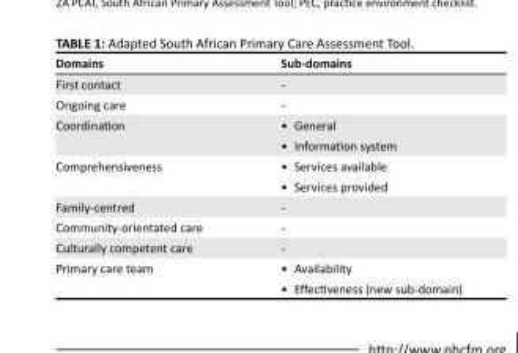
<table><thead><tr><td>Domains</td><td>Sub-domains</td></tr></thead><tbody><tr><td>First contact</td><td>-</td></tr><tr><td>Ongoing care</td><td>-</td></tr><tr><td rowspan="2">Coordination</td><td>• General</td></tr><tr><td>• Information system</td></tr><tr><td rowspan="2">Comprehensiveness</td><td>• Services available</td></tr><tr><td>• Services provided</td></tr><tr><td>Family-centred</td><td>-</td></tr><tr><td>Community-orientated care</td><td>-</td></tr><tr><td>Culturally competent care</td><td>-</td></tr><tr><td rowspan="2">Primary care team</td><td>• Availability</td></tr><tr><td>• Effectiveness (new sub-domain)</td></tr></tbody></table>